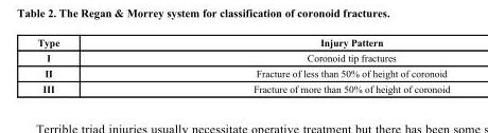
<table><thead><tr><td>Type</td><td>Injury Pattern</td></tr></thead><tbody><tr><td>I</td><td>Coronoid tip fractures</td></tr><tr><td>II</td><td>Fracture of less than 50% of height of coronoid</td></tr><tr><td>III</td><td>Fracture of more than 50% of height of coronoid</td></tr></tbody></table>